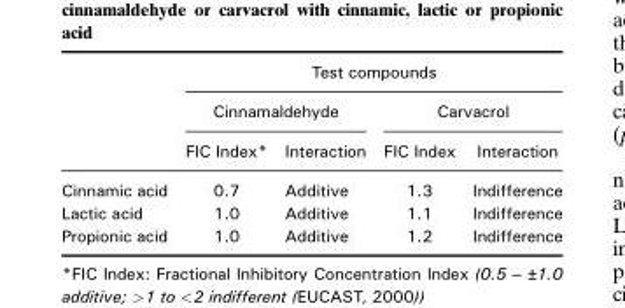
<table><thead><tr><td rowspan="3"></td><td colspan="4">Test compounds</td></tr><tr><td colspan="2">Cinnamaldehyde</td><td colspan="2">Carvacrol</td></tr><tr><td>FIC Index*</td><td>Interaction</td><td>FIC Index</td><td>Interaction</td></tr></thead><tbody><tr><td>Cinnamic acid</td><td>0.7</td><td>Additive</td><td>1.3</td><td>Indifference</td></tr><tr><td>Lactic acid</td><td>1.0</td><td>Additive</td><td>1.1</td><td>Indifference</td></tr><tr><td>Propionic acid</td><td>1.0</td><td>Additive</td><td>1.2</td><td>Indifference</td></tr></tbody></table>